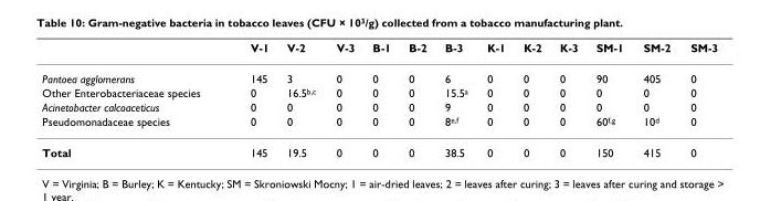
<table><thead><tr><td></td><td>V-1</td><td>V-2</td><td>V-3</td><td>B-1</td><td>B-2</td><td>B-3</td><td>K-1</td><td>K-2</td><td>K-3</td><td>SM-1</td><td>SM-2</td><td>SM-3</td></tr></thead><tbody><tr><td>Pantoea agglomerans</td><td>145</td><td>3</td><td>0</td><td>0</td><td>0</td><td>6</td><td>0</td><td>0</td><td>0</td><td>90</td><td>405</td><td>0</td></tr><tr><td>Other Enterobacteriaceae species</td><td>0</td><td>16.5<sup>b,c</sup></td><td>0</td><td>0</td><td>0</td><td>15.5<sup>a</sup></td><td>0</td><td>0</td><td>0</td><td>0</td><td>0</td><td>0</td></tr><tr><td>Acinetobacter calcoaceticus</td><td>0</td><td>0</td><td>0</td><td>0</td><td>0</td><td>9</td><td>0</td><td>0</td><td>0</td><td>0</td><td>0</td><td>0</td></tr><tr><td>Pseudomonadaceae species</td><td>0</td><td>0</td><td>0</td><td>0</td><td>0</td><td>8<sup>e,f</sup></td><td>0</td><td>0</td><td>0</td><td>60<sup>f,g</sup></td><td>10<sup>d</sup></td><td>0</td></tr><tr><td>Total</td><td>145</td><td>19.5</td><td>0</td><td>0</td><td>0</td><td>38.5</td><td>0</td><td>0</td><td>0</td><td>150</td><td>415</td><td>0</td></tr></tbody></table>